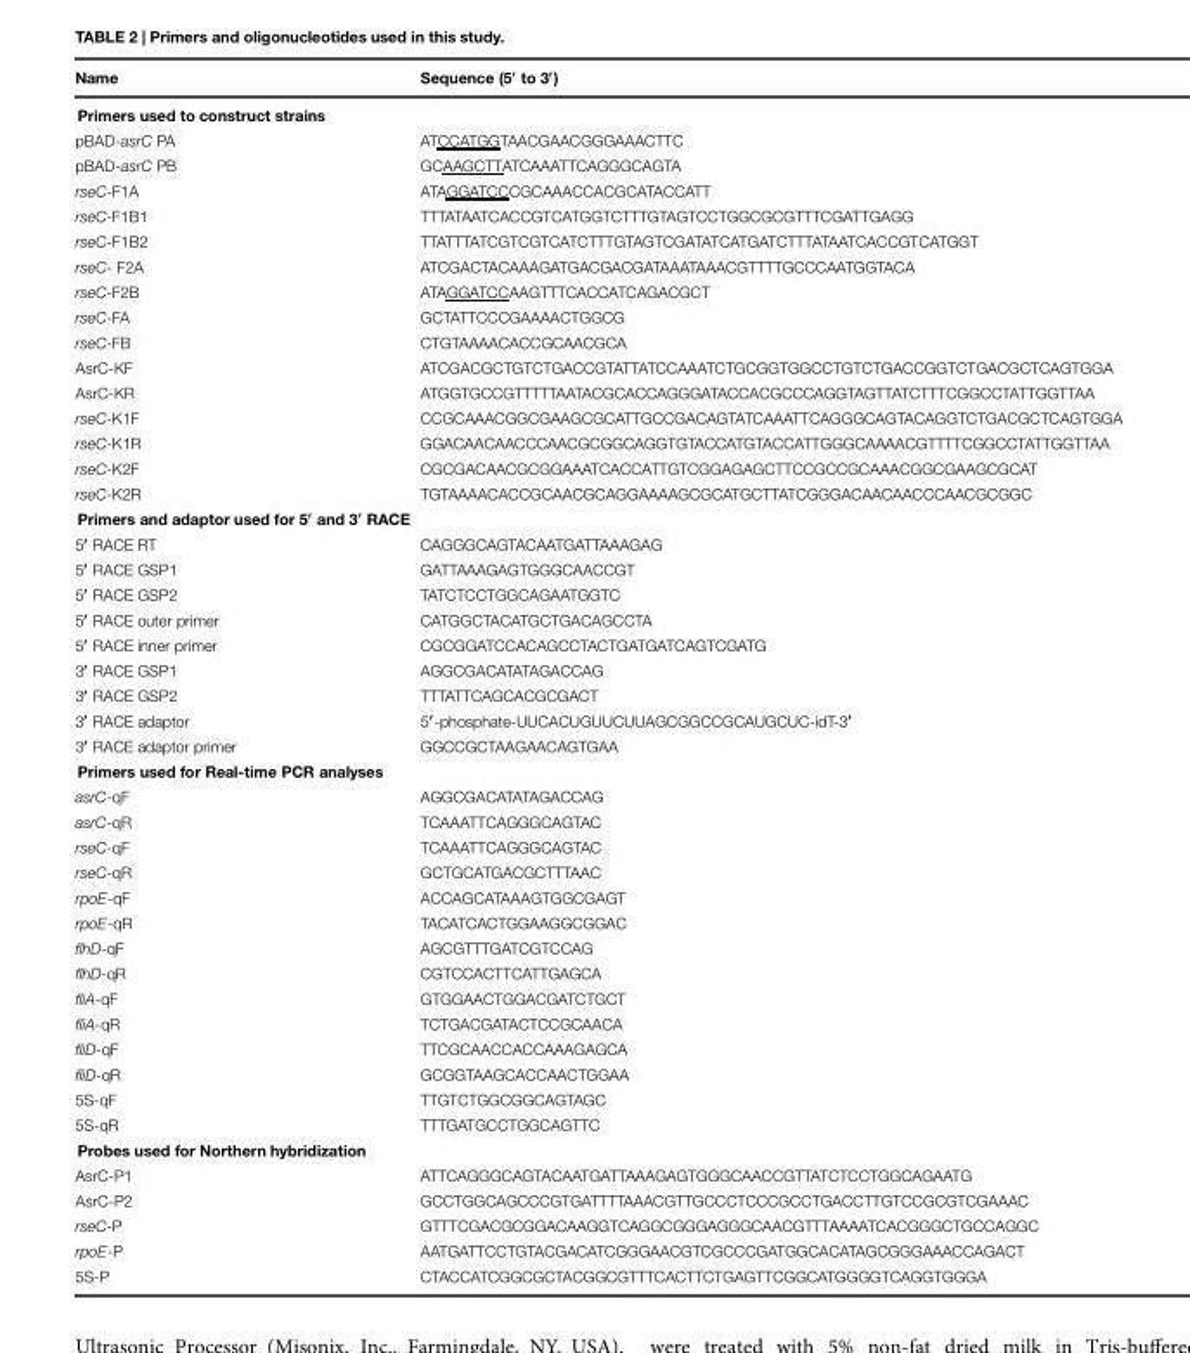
<table><thead><tr><td>Name</td><td>Sequence (5′ to 3′)</td></tr></thead><tbody><tr><td colspan="2">Primers used to construct strains</td></tr><tr><td>pBAD-asrC PA</td><td>ATCCATGGTAACGAACGGGAAACTTC</td></tr><tr><td>pBAD-asrC PB</td><td>GCAAGCTTATCAAATTCAGGGCAGTA</td></tr><tr><td>rseC-F1A</td><td>ATAGGATCCCGCAAACCACGCATACCATT</td></tr><tr><td>rseC-F1B1</td><td>TTTATAATCACCGTCATGGTCTTTGTAGTCCTGGCGCGTTTCGATTGAGG</td></tr><tr><td>rseC-F1B2</td><td>TTATTTATCGTCGTCATCTTTGTAGTCGATATCATGATCTTTATAATCACCGTCATGGT</td></tr><tr><td>rseC- F2A</td><td>ATCGACTACAAAGATGACGACGATAAATAAACGTTTTGCCCAATGGTACA</td></tr><tr><td>rseC-F2B</td><td>ATAGGATCCAAGTTTCACCATCAGACGCT</td></tr><tr><td>rseC-FA</td><td>GCTATTCCCGAAAACTGGCG</td></tr><tr><td>rseC-FB</td><td>CTGTAAAACACCGCAACGCA</td></tr><tr><td>AsrC-KF</td><td>ATCGACGCTGTCTGACCGTATTATCCAAATCTGCGGTGGCCTGTCTGACCGGTCTGACGCTCAGTGGA</td></tr><tr><td>AsrC-KR</td><td>ATGGTGCCGTTTTTAATACGCACCAGGGATACCACGCCCAGGTAGTTATCTTTCGGCCTATTGGTTAA</td></tr><tr><td>rseC-K1F</td><td>CCGCAAACGGCGAAGCGCATTGCCGACAGTATCAAATTCAGGGCAGTACAGGTCTGACGCTCAGTGGA</td></tr><tr><td>rseC-K1R</td><td>GGACAACAACCCAACGCGGCAGGTGTACCATGTACCATTGGGCAAAACGTTTTCGGCCTATTGGTTAA</td></tr><tr><td>rseC-K2F</td><td>CGCGACAACGCGGAAATCACCATTGTCGGAGAGCTTCCGCCGCAAACGGCGAAGCGCAT</td></tr><tr><td>rseC-K2R</td><td>TGTAAAACACCGCAACGCAGGAAAAGCGCATGCTTATCGGGACAACAACCCAACGCGGC</td></tr><tr><td colspan="2">Primers and adaptor used for 5′ and 3′ RACE</td></tr><tr><td>5′ RACE RT</td><td>CAGGGCAGTACAATGATTAAAGAG</td></tr><tr><td>5′ RACE GSP1</td><td>GATTAAAGAGTGGGCAACCGT</td></tr><tr><td>5′ RACE GSP2</td><td>TATCTCCTGGCAGAATGGTC</td></tr><tr><td>5′ RACE outer primer</td><td>CATGGCTACATGCTGACAGCCTA</td></tr><tr><td>5′ RACE inner primer</td><td>CGCGGATCCACAGCCTACTGATGATCAGTCGATG</td></tr><tr><td>3′ RACE GSP1</td><td>AGGCGACATATAGACCAG</td></tr><tr><td>3′ RACE GSP2</td><td>TTTATTCAGCACGCGACT</td></tr><tr><td>3′ RACE adaptor</td><td>5′-phosphate-UUCACUGUUCUUAGCGGCCGCAUGCUC-idT-3′</td></tr><tr><td>3′ RACE adaptor primer</td><td>GGCCGCTAAGAACAGTGAA</td></tr><tr><td colspan="2">Primers used for Real-time PCR analyses</td></tr><tr><td>asrC-qF</td><td>AGGCGACATATAGACCAG</td></tr><tr><td>asrC-qR</td><td>TCAAATTCAGGGCAGTAC</td></tr><tr><td>rseC-qF</td><td>TCAAATTCAGGGCAGTAC</td></tr><tr><td>rseC-qR</td><td>GCTGCATGACGCTTTAAC</td></tr><tr><td>rpoE-qF</td><td>ACCAGCATAAAGTGGCGAGT</td></tr><tr><td>rpoE-qR</td><td>TACATCACTGGAAGGCGGAC</td></tr><tr><td>flhD-qF</td><td>AGCGTTTGATCGTCCAG</td></tr><tr><td>flhD-qR</td><td>CGTCCACTTCATTGAGCA</td></tr><tr><td>fliA-qF</td><td>GTGGAACTGGACGATCTGCT</td></tr><tr><td>fliA-qR</td><td>TCTGACGATACTCCGCAACA</td></tr><tr><td>fliD-qF</td><td>TTCGCAACCACCAAAGAGCA</td></tr><tr><td>fliD-qR</td><td>GCGGTAAGCACCAACTGGAA</td></tr><tr><td>5S-qF</td><td>TTGTCTGGCGGCAGTAGC</td></tr><tr><td>5S-qR</td><td>TTTGATGCCTGGCAGTTC</td></tr><tr><td colspan="2">Probes used for Northern hybridization</td></tr><tr><td>AsrC-P1</td><td>ATTCAGGGCAGTACAATGATTAAAGAGTGGGCAACCGTTATCTCCTGGCAGAATG</td></tr><tr><td>AsrC-P2</td><td>GCCTGGCAGCCCGTGATTTTAAACGTTGCCCTCCCGCCTGACCTTGTCCGCGTCGAAAC</td></tr><tr><td>rseC-P</td><td>GTTTCGACGCGGACAAGGTCAGGCGGGAGGGCAACGTTTAAAATCACGGGCTGCCAGGC</td></tr><tr><td>rpoE-P</td><td>AATGATTCCTGTACGACATCGGGAACGTCGCCCGATGGCACATAGCGGGAAACCAGACT</td></tr><tr><td>5S-P</td><td>CTACCATCGGCGCTACGGCGTTTCACTTCTGAGTTCGGCATGGGGTCAGGTGGGA</td></tr></tbody></table>